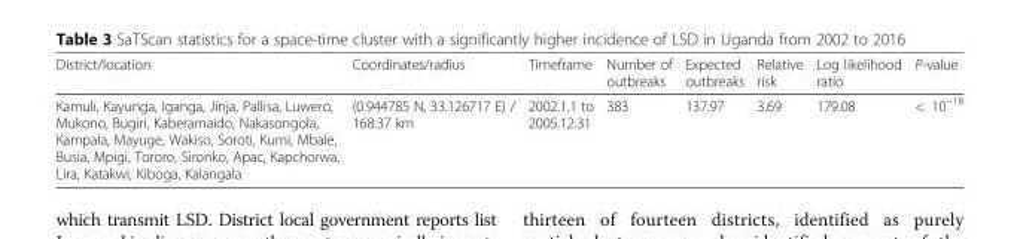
<table><thead><tr><td>District/location</td><td>Coordinates/radius</td><td>Timeframe</td><td>Number of outbreaks</td><td>Expected outbreaks</td><td>Relative risk</td><td>Log likelihood ratio</td><td>P-value</td></tr></thead><tbody><tr><td>Kamuli, Kayunga, Iganga, Jinja, Pallisa, Luwero, Mukono, Bugiri, Kaberamaido, Nakasongola, Kampala, Mayuge, Wakiso, Soroti, Kumi, Mbale, Busia, Mpigi, Tororo, Sironko, Apac, Kapchorwa, Lira, Katakwi, Kiboga, Kalangala</td><td>(0.944785 N, 33.126717 E) / 168.37 km</td><td>2002.1.1 to 2005.12.31</td><td>383</td><td>137.97</td><td>3.69</td><td>179.08</td><td>&lt; 10<sup>−18</sup></td></tr></tbody></table>